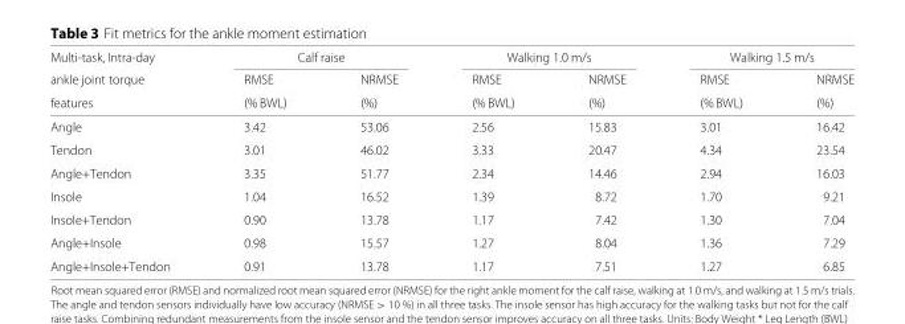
<table><thead><tr><td rowspan="3">Multi-task, Intra-day ankle joint torque features</td><td colspan="2">Calf raise</td><td colspan="2">Walking 1.0 m/s</td><td colspan="2">Walking 1.5 m/s</td></tr><tr><td rowspan="2">RMSE (% BWL)</td><td rowspan="2">NRMSE (%)</td><td rowspan="2">RMSE (% BWL)</td><td rowspan="2">NRMSE (%)</td><td rowspan="2">RMSE (% BWL)</td><td rowspan="2">NRMSE (%)</td></tr><tr></tr></thead><tbody><tr><td>Angle</td><td>3.42</td><td>53.06</td><td>2.56</td><td>15.83</td><td>3.01</td><td>16.42</td></tr><tr><td>Tendon</td><td>3.01</td><td>46.02</td><td>3.33</td><td>20.47</td><td>4.34</td><td>23.54</td></tr><tr><td>Angle+Tendon</td><td>3.35</td><td>51.77</td><td>2.34</td><td>14.46</td><td>2.94</td><td>16.03</td></tr><tr><td>Insole</td><td>1.04</td><td>16.52</td><td>1.39</td><td>8.72</td><td>1.70</td><td>9.21</td></tr><tr><td>Insole+Tendon</td><td>0.90</td><td>13.78</td><td>1.17</td><td>7.42</td><td>1.30</td><td>7.04</td></tr><tr><td>Angle+Insole</td><td>0.98</td><td>15.57</td><td>1.27</td><td>8.04</td><td>1.36</td><td>7.29</td></tr><tr><td>Angle+Insole+Tendon</td><td>0.91</td><td>13.78</td><td>1.17</td><td>7.51</td><td>1.27</td><td>6.85</td></tr></tbody></table>